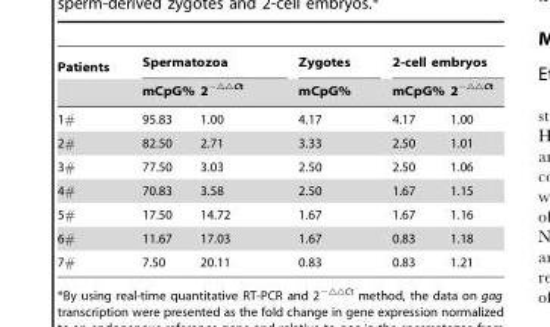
<table><thead><tr><td rowspan="2">Patients</td><td colspan="2">Spermatozoa</td><td rowspan="2">Zygotes mCpG%</td><td colspan="2">2-cell embryos</td></tr><tr><td>mCpG%</td><td>2<sup>−△△Ct</sup></td><td>mCpG%</td><td>2<sup>−△△Ct</sup></td></tr></thead><tbody><tr><td>1#</td><td>95.83</td><td>1.00</td><td>4.17</td><td>4.17</td><td>1.00</td></tr><tr><td>2#</td><td>82.50</td><td>2.71</td><td>3.33</td><td>2.50</td><td>1.01</td></tr><tr><td>3#</td><td>77.50</td><td>3.03</td><td>2.50</td><td>2.50</td><td>1.06</td></tr><tr><td>4#</td><td>70.83</td><td>3.58</td><td>2.50</td><td>1.67</td><td>1.15</td></tr><tr><td>5#</td><td>17.50</td><td>14.72</td><td>1.67</td><td>1.67</td><td>1.16</td></tr><tr><td>6#</td><td>11.67</td><td>17.03</td><td>1.67</td><td>0.83</td><td>1.18</td></tr><tr><td>7#</td><td>7.50</td><td>20.11</td><td>0.83</td><td>0.83</td><td>1.21</td></tr></tbody></table>